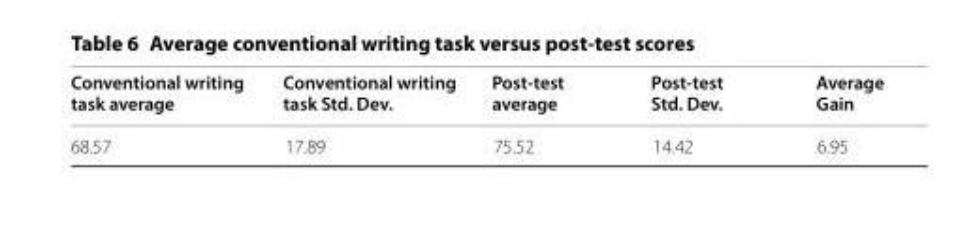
<table><thead><tr><td>Conventional writing task average</td><td>Conventional writing task Std. Dev.</td><td>Post-test average</td><td>Post-test Std. Dev.</td><td>Average Gain</td></tr></thead><tbody><tr><td>68.57</td><td>17.89</td><td>75.52</td><td>14.42</td><td>6.95</td></tr></tbody></table>